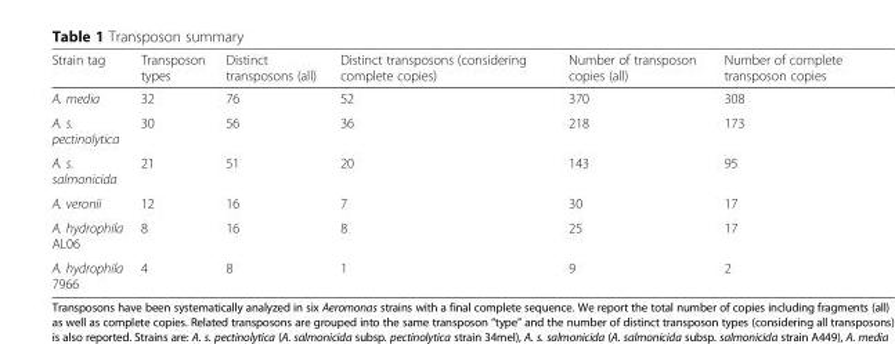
<table><thead><tr><td>Strain tag</td><td>Transposon types</td><td>Distinct transposons (all)</td><td>Distinct transposons (considering complete copies)</td><td>Number of transposon copies (all)</td><td>Number of complete transposon copies</td></tr></thead><tbody><tr><td>A. media</td><td>32</td><td>76</td><td>52</td><td>370</td><td>308</td></tr><tr><td>A. s. pectinolytica</td><td>30</td><td>56</td><td>36</td><td>218</td><td>173</td></tr><tr><td>A. s. salmonicida</td><td>21</td><td>51</td><td>20</td><td>143</td><td>95</td></tr><tr><td>A. veronii</td><td>12</td><td>16</td><td>7</td><td>30</td><td>17</td></tr><tr><td>A. hydrophila AL06</td><td>8</td><td>16</td><td>8</td><td>25</td><td>17</td></tr><tr><td>A. hydrophila 7966</td><td>4</td><td>8</td><td>1</td><td>9</td><td>2</td></tr></tbody></table>